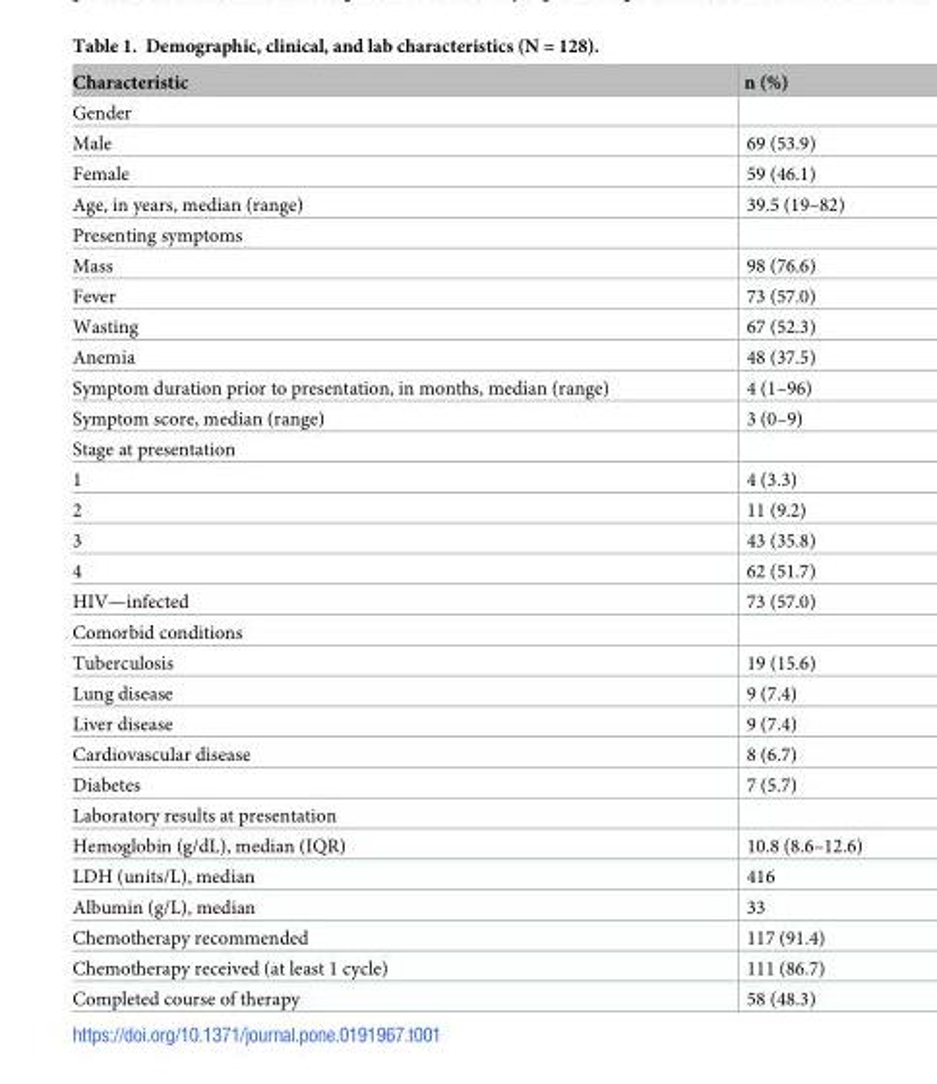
<table><thead><tr><td>Characteristic</td><td>n (%)</td></tr></thead><tbody><tr><td colspan="2">Gender</td></tr><tr><td>Male</td><td>69 (53.9)</td></tr><tr><td>Female</td><td>59 (46.1)</td></tr><tr><td>Age, in years, median (range)</td><td>39.5 (19–82)</td></tr><tr><td colspan="2">Presenting symptoms</td></tr><tr><td>Mass</td><td>98 (76.6)</td></tr><tr><td>Fever</td><td>73 (57.0)</td></tr><tr><td>Wasting</td><td>67 (52.3)</td></tr><tr><td>Anemia</td><td>48 (37.5)</td></tr><tr><td>Symptom duration prior to presentation, in months, median (range)</td><td>4 (1–96)</td></tr><tr><td>Symptom score, median (range)</td><td>3 (0–9)</td></tr><tr><td colspan="2">Stage at presentation</td></tr><tr><td>1</td><td>4 (3.3)</td></tr><tr><td>2</td><td>11 (9.2)</td></tr><tr><td>3</td><td>43 (35.8)</td></tr><tr><td>4</td><td>62 (51.7)</td></tr><tr><td>HIV—infected</td><td>73 (57.0)</td></tr><tr><td colspan="2">Comorbid conditions</td></tr><tr><td>Tuberculosis</td><td>19 (15.6)</td></tr><tr><td>Lung disease</td><td>9 (7.4)</td></tr><tr><td>Liver disease</td><td>9 (7.4)</td></tr><tr><td>Cardiovascular disease</td><td>8 (6.7)</td></tr><tr><td>Diabetes</td><td>7 (5.7)</td></tr><tr><td colspan="2">Laboratory results at presentation</td></tr><tr><td>Hemoglobin (g/dL), median (IQR)</td><td>10.8 (8.6–12.6)</td></tr><tr><td>LDH (units/L), median</td><td>416</td></tr><tr><td>Albumin (g/L), median</td><td>33</td></tr><tr><td>Chemotherapy recommended</td><td>117 (91.4)</td></tr><tr><td>Chemotherapy received (at least 1 cycle)</td><td>111 (86.7)</td></tr><tr><td>Completed course of therapy</td><td>58 (48.3)</td></tr></tbody></table>